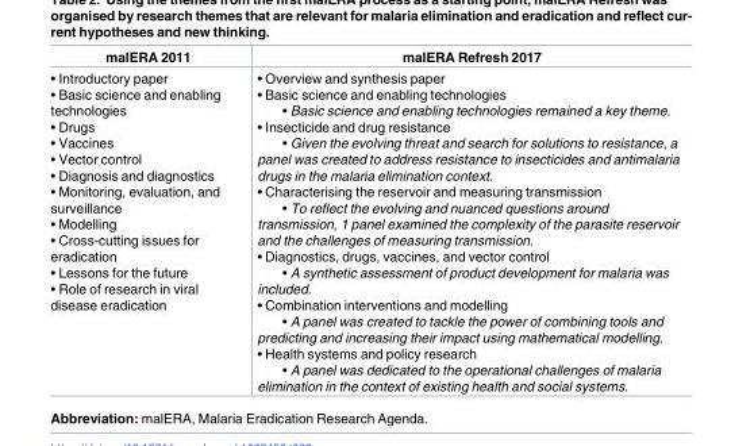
<table><thead><tr><td>malERA 2011</td><td>malERA Refresh 2017</td></tr></thead><tbody><tr><td>• Introductory paper • Basic science and enabling technologies • Drugs • Vaccines • Vector control • Diagnosis and diagnostics • Monitoring, evaluation, and surveillance • Modelling • Cross-cutting issues for eradication • Lessons for the future • Role of research in viral disease eradication</td><td>• Overview and synthesis paper • Basic science and enabling technologies • Basic science and enabling technologies remained a key theme. • Insecticide and drug resistance • Given the evolving threat and search for solutions to resistance, a panel was created to address resistance to insecticides and antimalaria drugs in the malaria elimination context. • Characterising the reservoir and measuring transmission • To reflect the evolving and nuanced questions around transmission, 1 panel examined the complexity of the parasite reservoir and the challenges of measuring transmission. • Diagnostics, drugs, vaccines, and vector control • A synthetic assessment of product development for malaria was included. • Combination interventions and modelling • A panel was created to tackle the power of combining tools and predicting and increasing their impact using mathematical modelling. • Health systems and policy research • A panel was dedicated to the operational challenges of malaria elimination in the context of existing health and social systems.</td></tr></tbody></table>